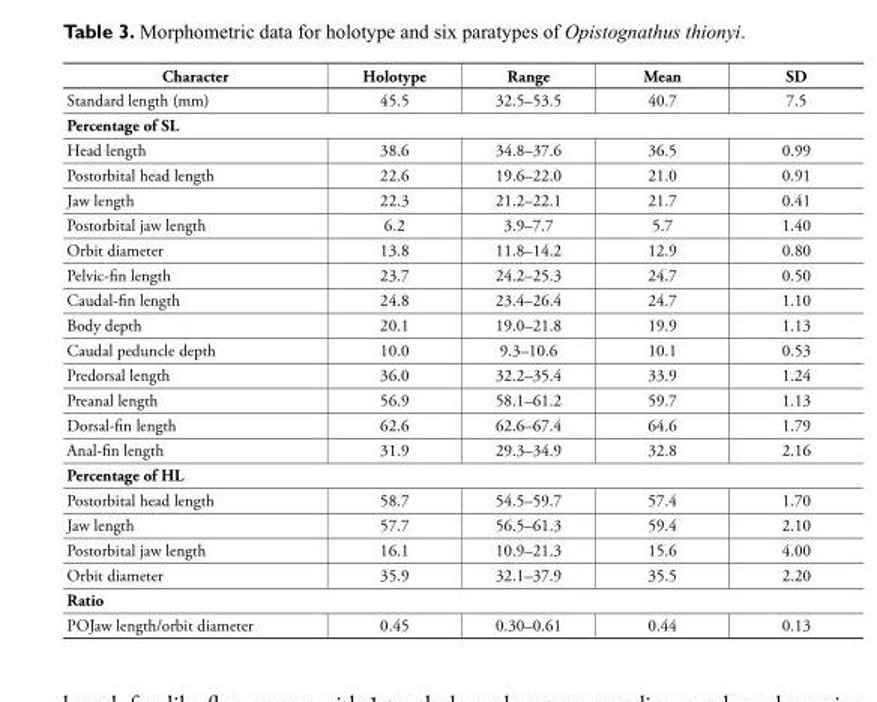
<table><thead><tr><td>Character</td><td>Holotype</td><td>Range</td><td>Mean</td><td>SD</td></tr></thead><tbody><tr><td>Standard length (mm)</td><td>45.5</td><td>32.5–53.5</td><td>40.7</td><td>7.5</td></tr><tr><td colspan="5">Percentage of SL</td></tr><tr><td>Head length</td><td>38.6</td><td>34.8–37.6</td><td>36.5</td><td>0.99</td></tr><tr><td>Postorbital head length</td><td>22.6</td><td>19.6–22.0</td><td>21.0</td><td>0.91</td></tr><tr><td>Jaw length</td><td>22.3</td><td>21.2–22.1</td><td>21.7</td><td>0.41</td></tr><tr><td>Postorbital jaw length</td><td>6.2</td><td>3.9–7.7</td><td>5.7</td><td>1.40</td></tr><tr><td>Orbit diameter</td><td>13.8</td><td>11.8–14.2</td><td>12.9</td><td>0.80</td></tr><tr><td>Pelvic-fin length</td><td>23.7</td><td>24.2–25.3</td><td>24.7</td><td>0.50</td></tr><tr><td>Caudal-fin length</td><td>24.8</td><td>23.4–26.4</td><td>24.7</td><td>1.10</td></tr><tr><td>Body depth</td><td>20.1</td><td>19.0–21.8</td><td>19.9</td><td>1.13</td></tr><tr><td>Caudal peduncle depth</td><td>10.0</td><td>9.3–10.6</td><td>10.1</td><td>0.53</td></tr><tr><td>Predorsal length</td><td>36.0</td><td>32.2–35.4</td><td>33.9</td><td>1.24</td></tr><tr><td>Preanal length</td><td>56.9</td><td>58.1–61.2</td><td>59.7</td><td>1.13</td></tr><tr><td>Dorsal-fin length</td><td>62.6</td><td>62.6–67.4</td><td>64.6</td><td>1.79</td></tr><tr><td>Anal-fin length</td><td>31.9</td><td>29.3–34.9</td><td>32.8</td><td>2.16</td></tr><tr><td colspan="5">Percentage of HL</td></tr><tr><td>Postorbital head length</td><td>58.7</td><td>54.5–59.7</td><td>57.4</td><td>1.70</td></tr><tr><td>Jaw length</td><td>57.7</td><td>56.5–61.3</td><td>59.4</td><td>2.10</td></tr><tr><td>Postorbital jaw length</td><td>16.1</td><td>10.9–21.3</td><td>15.6</td><td>4.00</td></tr><tr><td>Orbit diameter</td><td>35.9</td><td>32.1–37.9</td><td>35.5</td><td>2.20</td></tr><tr><td colspan="5">Ratio</td></tr><tr><td>POJaw length/orbit diameter</td><td>0.45</td><td>0.30–0.61</td><td>0.44</td><td>0.13</td></tr></tbody></table>